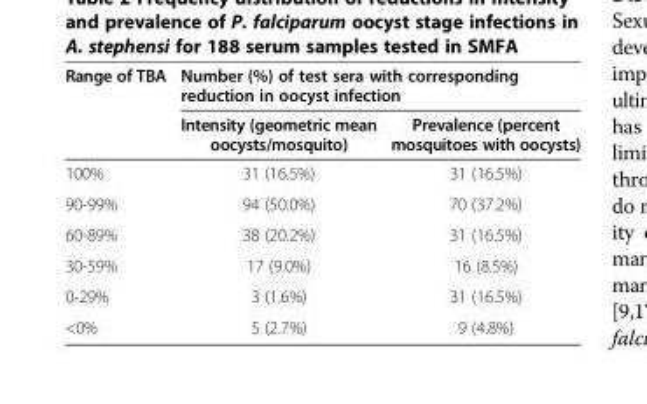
<table><thead><tr><td rowspan="2">Range of TBA</td><td colspan="2">Number (%) of test sera with corresponding reduction in oocyst infection</td></tr><tr><td>Intensity (geometric mean oocysts/mosquito)</td><td>Prevalence (percent mosquitoes with oocysts)</td></tr></thead><tbody><tr><td>100%</td><td>31 (16.5%)</td><td>31 (16.5%)</td></tr><tr><td>90-99%</td><td>94 (50.0%)</td><td>70 (37.2%)</td></tr><tr><td>60-89%</td><td>38 (20.2%)</td><td>31 (16.5%)</td></tr><tr><td>30-59%</td><td>17 (9.0%)</td><td>16 (8.5%)</td></tr><tr><td>0-29%</td><td>3 (1.6%)</td><td>31 (16.5%)</td></tr><tr><td>&lt;0%</td><td>5 (2.7%)</td><td>9 (4.8%)</td></tr></tbody></table>